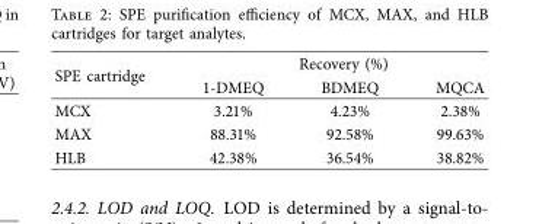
<table><thead><tr><td rowspan="2">SPE cartridge</td><td colspan="3">Recovery (%)</td></tr><tr><td>1-DMEQ</td><td>BDMEQ</td><td>MQCA</td></tr></thead><tbody><tr><td>MCX</td><td>3.21%</td><td>4.23%</td><td>2.38%</td></tr><tr><td>MAX</td><td>88.31%</td><td>92.58%</td><td>99.63%</td></tr><tr><td>HLB</td><td>42.38%</td><td>36.54%</td><td>38.82%</td></tr></tbody></table>